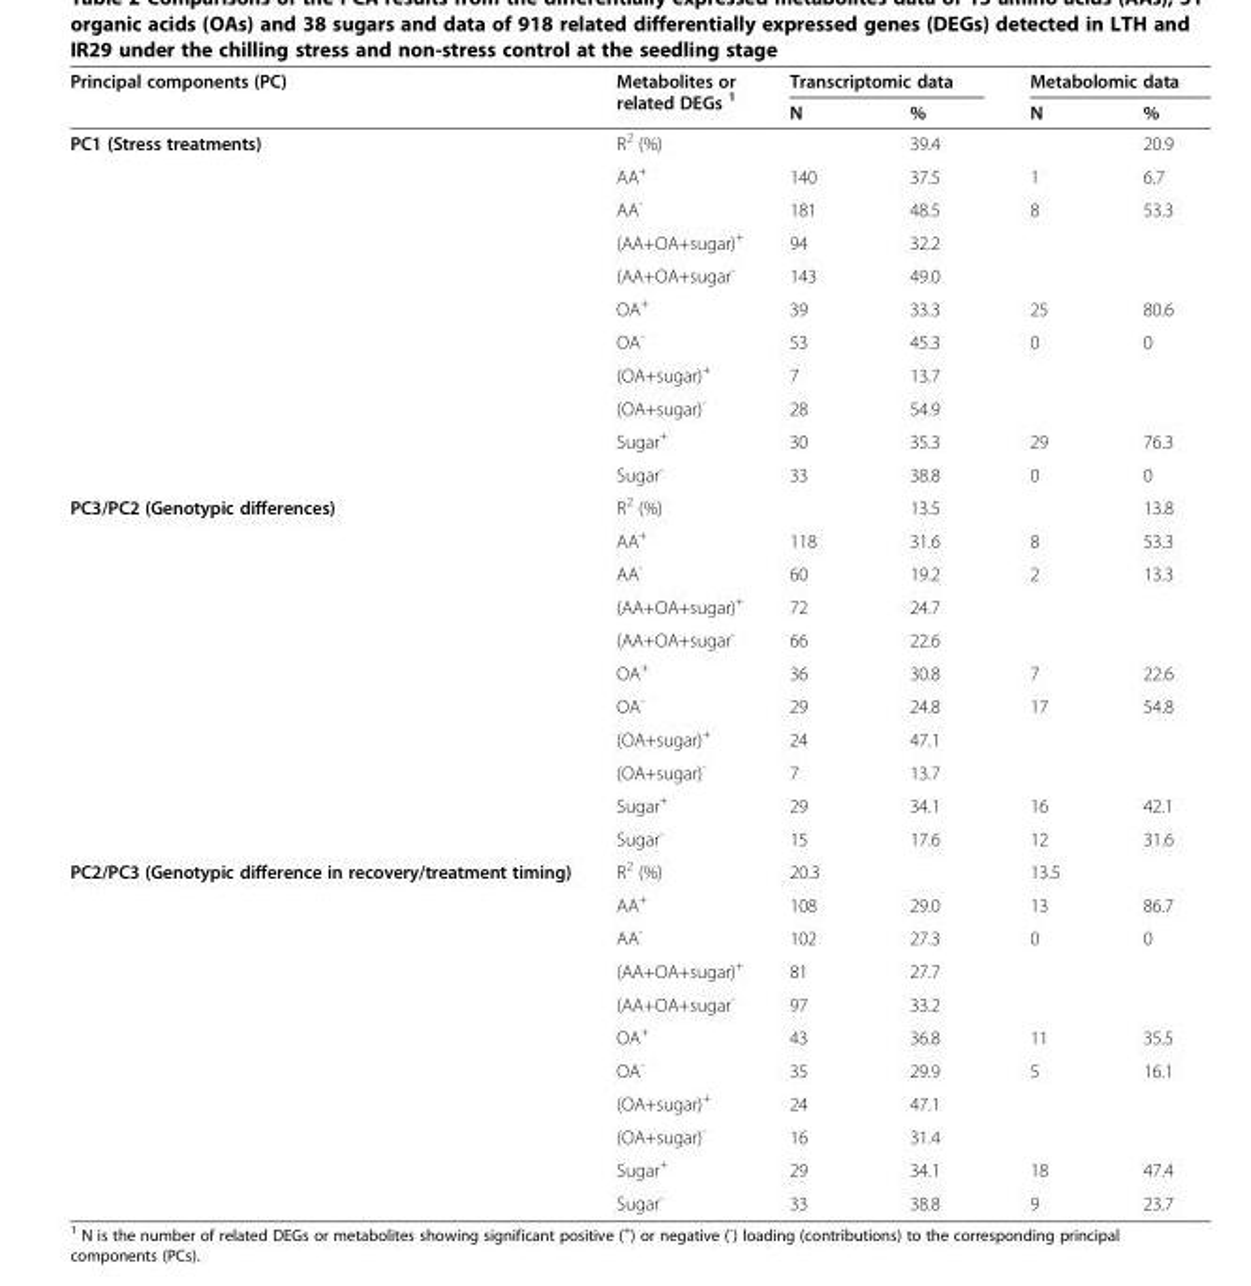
<table><thead><tr><td rowspan="2">Principal components (PC)</td><td rowspan="2">Metabolites or related DEGs <sup>1</sup></td><td colspan="2">Transcriptomic data</td><td colspan="2">Metabolomic data</td></tr><tr><td>N</td><td>%</td><td>N</td><td>%</td></tr></thead><tbody><tr><td rowspan="11">PC1 (Stress treatments)</td><td>R<sup>2</sup> (%)</td><td></td><td>39.4</td><td></td><td>20.9</td></tr><tr><td>AA<sup>+</sup></td><td>140</td><td>37.5</td><td>1</td><td>6.7</td></tr><tr><td>AA<sup>-</sup></td><td>181</td><td>48.5</td><td>8</td><td>53.3</td></tr><tr><td>(AA+OA+sugar)<sup>+</sup></td><td>94</td><td>32.2</td><td></td><td></td></tr><tr><td>(AA+OA+sugar<sup>-</sup></td><td>143</td><td>49.0</td><td></td><td></td></tr><tr><td>OA<sup>+</sup></td><td>39</td><td>33.3</td><td>25</td><td>80.6</td></tr><tr><td>OA<sup>-</sup></td><td>53</td><td>45.3</td><td>0</td><td>0</td></tr><tr><td>(OA+sugar)<sup>+</sup></td><td>7</td><td>13.7</td><td></td><td></td></tr><tr><td>(OA+sugar)<sup>-</sup></td><td>28</td><td>54.9</td><td></td><td></td></tr><tr><td>Sugar<sup>+</sup></td><td>30</td><td>35.3</td><td>29</td><td>76.3</td></tr><tr><td>Sugar<sup>-</sup></td><td>33</td><td>38.8</td><td>0</td><td>0</td></tr><tr><td rowspan="11">PC3/PC2 (Genotypic differences)</td><td>R<sup>2</sup> (%)</td><td></td><td>13.5</td><td></td><td>13.8</td></tr><tr><td>AA<sup>+</sup></td><td>118</td><td>31.6</td><td>8</td><td>53.3</td></tr><tr><td>AA<sup>-</sup></td><td>60</td><td>19.2</td><td>2</td><td>13.3</td></tr><tr><td>(AA+OA+sugar)<sup>+</sup></td><td>72</td><td>24.7</td><td></td><td></td></tr><tr><td>(AA+OA+sugar<sup>-</sup></td><td>66</td><td>22.6</td><td></td><td></td></tr><tr><td>OA<sup>+</sup></td><td>36</td><td>30.8</td><td>7</td><td>22.6</td></tr><tr><td>OA<sup>-</sup></td><td>29</td><td>24.8</td><td>17</td><td>54.8</td></tr><tr><td>(OA+sugar)<sup>+</sup></td><td>24</td><td>47.1</td><td></td><td></td></tr><tr><td>(OA+sugar)<sup>-</sup></td><td>7</td><td>13.7</td><td></td><td></td></tr><tr><td>Sugar<sup>+</sup></td><td>29</td><td>34.1</td><td>16</td><td>42.1</td></tr><tr><td>Sugar<sup>-</sup></td><td>15</td><td>17.6</td><td>12</td><td>31.6</td></tr><tr><td rowspan="11">PC2/PC3 (Genotypic difference in recovery/treatment timing)</td><td>R<sup>2</sup> (%)</td><td>20.3</td><td></td><td>13.5</td><td></td></tr><tr><td>AA<sup>+</sup></td><td>108</td><td>29.0</td><td>13</td><td>86.7</td></tr><tr><td>AA<sup>-</sup></td><td>102</td><td>27.3</td><td>0</td><td>0</td></tr><tr><td>(AA+OA+sugar)<sup>+</sup></td><td>81</td><td>27.7</td><td></td><td></td></tr><tr><td>(AA+OA+sugar<sup>-</sup></td><td>97</td><td>33.2</td><td></td><td></td></tr><tr><td>OA<sup>+</sup></td><td>43</td><td>36.8</td><td>11</td><td>35.5</td></tr><tr><td>OA<sup>-</sup></td><td>35</td><td>29.9</td><td>5</td><td>16.1</td></tr><tr><td>(OA+sugar)<sup>+</sup></td><td>24</td><td>47.1</td><td></td><td></td></tr><tr><td>(OA+sugar)<sup>-</sup></td><td>16</td><td>31.4</td><td></td><td></td></tr><tr><td>Sugar<sup>+</sup></td><td>29</td><td>34.1</td><td>18</td><td>47.4</td></tr><tr><td>Sugar<sup>-</sup></td><td>33</td><td>38.8</td><td>9</td><td>23.7</td></tr></tbody></table>